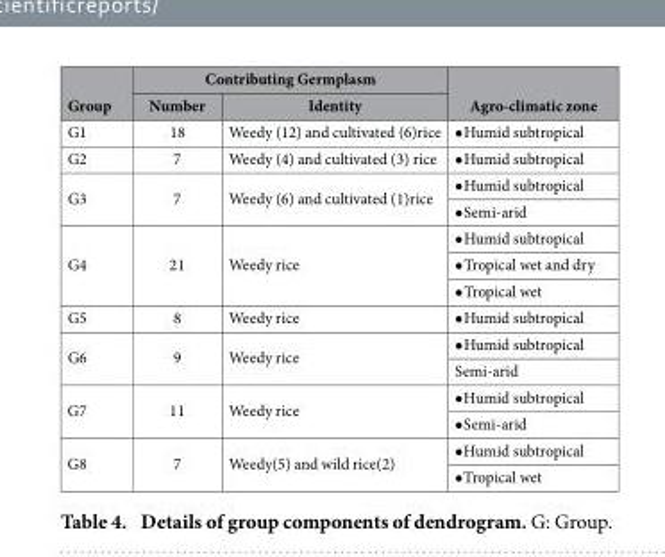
<table><thead><tr><td rowspan="2">Group</td><td colspan="2">Contributing Germplasm</td><td rowspan="2">Agro-climatic zone</td></tr><tr><td>Number</td><td>Identity</td></tr></thead><tbody><tr><td>G1</td><td>18</td><td>Weedy (12) and cultivated (6)rice</td><td>• Humid subtropical</td></tr><tr><td>G2</td><td>7</td><td>Weedy (4) and cultivated (3) rice</td><td>• Humid subtropical</td></tr><tr><td rowspan="2">G3</td><td rowspan="2">7</td><td rowspan="2">Weedy (6) and cultivated (1)rice</td><td>• Humid subtropical</td></tr><tr><td>• Semi-arid</td></tr><tr><td rowspan="3">G4</td><td rowspan="3">21</td><td rowspan="3">Weedy rice</td><td>• Humid subtropical</td></tr><tr><td>• Tropical wet and dry</td></tr><tr><td>• Tropical wet</td></tr><tr><td>G5</td><td>8</td><td>Weedy rice</td><td>• Humid subtropical</td></tr><tr><td rowspan="2">G6</td><td rowspan="2">9</td><td rowspan="2">Weedy rice</td><td>• Humid subtropical</td></tr><tr><td>Semi-arid</td></tr><tr><td rowspan="2">G7</td><td rowspan="2">11</td><td rowspan="2">Weedy rice</td><td>• Humid subtropical</td></tr><tr><td>• Semi-arid</td></tr><tr><td rowspan="2">G8</td><td rowspan="2">7</td><td rowspan="2">Weedy(5) and wild rice(2)</td><td>• Humid subtropical</td></tr><tr><td>• Tropical wet</td></tr></tbody></table>